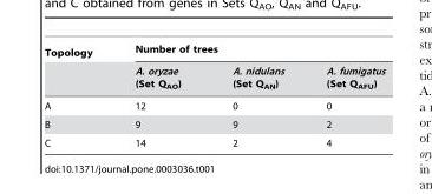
<table><thead><tr><td rowspan="2">Topology</td><td colspan="3">Number of trees</td></tr><tr><td>A. oryzae (Set Q<sub>AO</sub>)</td><td>A. nidulans (Set Q<sub>AN</sub>)</td><td>A. fumigatus (Set Q<sub>AFU</sub>)</td></tr></thead><tbody><tr><td>A</td><td>12</td><td>0</td><td>0</td></tr><tr><td>B</td><td>9</td><td>9</td><td>2</td></tr><tr><td>C</td><td>14</td><td>2</td><td>4</td></tr></tbody></table>